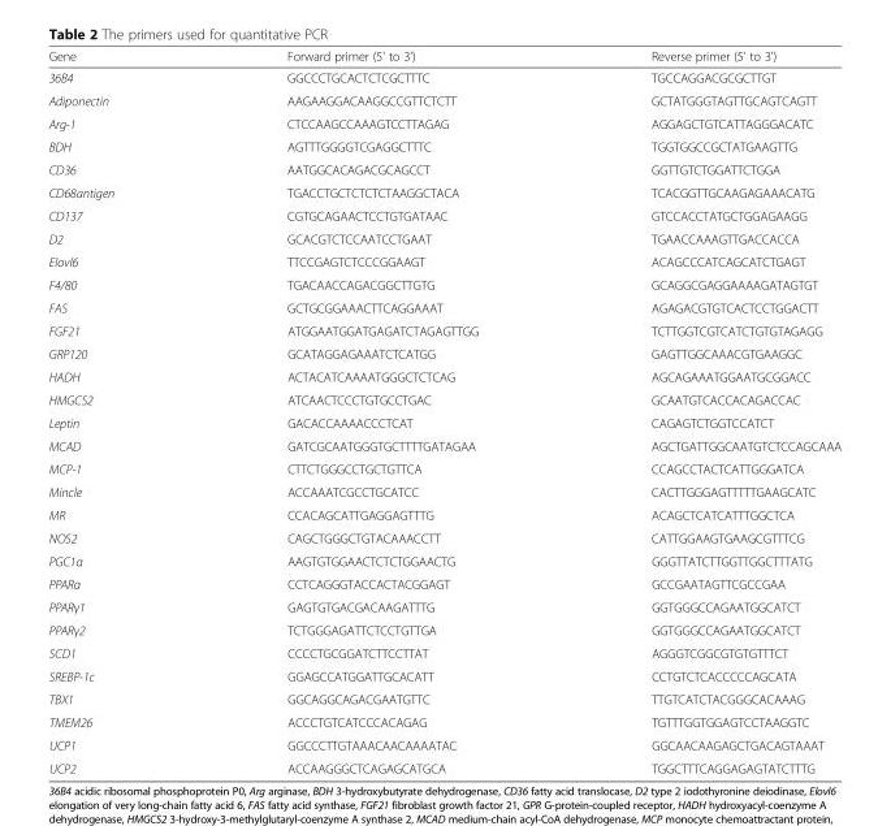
<table><thead><tr><td>Gene</td><td>Forward primer (5&#x27; to 3&#x27;)</td><td>Reverse primer (5&#x27; to 3&#x27;)</td></tr></thead><tbody><tr><td>36B4</td><td>GGCCCTGCACTCTCGCTTTC</td><td>TGCCAGGACGCGCTTGT</td></tr><tr><td>Adiponectin</td><td>AAGAAGGACAAGGCCGTTCTCTT</td><td>GCTATGGGTAGTTGCAGTCAGTT</td></tr><tr><td>Arg-1</td><td>CTCCAAGCCAAAGTCCTTAGAG</td><td>AGGAGCTGTCATTAGGGACATC</td></tr><tr><td>BDH</td><td>AGTTTGGGGTCGAGGCTTTC</td><td>TGGTGGCCGCTATGAAGTTG</td></tr><tr><td>CD36</td><td>AATGGCACAGACGCAGCCT</td><td>GGTTGTCTGGATTCTGGA</td></tr><tr><td>CD68antigen</td><td>TGACCTGCTCTCTCTAAGGCTACA</td><td>TCACGGTTGCAAGAGAAACATG</td></tr><tr><td>CD137</td><td>CGTGCAGAACTCCTGTGATAAC</td><td>GTCCACCTATGCTGGAGAAGG</td></tr><tr><td>D2</td><td>GCACGTCTCCAATCCTGAAT</td><td>TGAACCAAAGTTGACCACCA</td></tr><tr><td>Elovl6</td><td>TTCCGAGTCTCCCGGAAGT</td><td>ACAGCCCATCAGCATCTGAGT</td></tr><tr><td>F4/80</td><td>TGACAACCAGACGGCTTGTG</td><td>GCAGGCGAGGAAAAGATAGTGT</td></tr><tr><td>FAS</td><td>GCTGCGGAAACTTCAGGAAAT</td><td>AGAGACGTGTCACTCCTGGACTT</td></tr><tr><td>FGF21</td><td>ATGGAATGGATGAGATCTAGAGTTGG</td><td>TCTTGGTCGTCATCTGTGTAGAGG</td></tr><tr><td>GRP120</td><td>GCATAGGAGAAATCTCATGG</td><td>GAGTTGGCAAACGTGAAGGC</td></tr><tr><td>HADH</td><td>ACTACATCAAAATGGGCTCTCAG</td><td>AGCAGAAATGGAATGCGGACC</td></tr><tr><td>HMGCS2</td><td>ATCAACTCCCTGTGCCTGAC</td><td>GCAATGTCACCACAGACCAC</td></tr><tr><td>Leptin</td><td>GACACCAAAACCCTCAT</td><td>CAGAGTCTGGTCCATCT</td></tr><tr><td>MCAD</td><td>GATCGCAATGGGTGCTTTTGATAGAA</td><td>AGCTGATTGGCAATGTCTCCAGCAAA</td></tr><tr><td>MCP-1</td><td>CTTCTGGGCCTGCTGTTCA</td><td>CCAGCCTACTCATTGGGATCA</td></tr><tr><td>Mincle</td><td>ACCAAATCGCCTGCATCC</td><td>CACTTGGGAGTTTTTGAAGCATC</td></tr><tr><td>MR</td><td>CCACAGCATTGAGGAGTTTG</td><td>ACAGCTCATCATTTGGCTCA</td></tr><tr><td>NOS2</td><td>CAGCTGGGCTGTACAAACCTT</td><td>CATTGGAAGTGAAGCGTTTCG</td></tr><tr><td>PGC1α</td><td>AAGTGTGGAACTCTCTGGAACTG</td><td>GGGTTATCTTGGTTGGCTTTATG</td></tr><tr><td>PPARα</td><td>CCTCAGGGTACCACTACGGAGT</td><td>GCCGAATAGTTCGCCGAA</td></tr><tr><td>PPARγ1</td><td>GAGTGTGACGACAAGATTTG</td><td>GGTGGGCCAGAATGGCATCT</td></tr><tr><td>PPARγ2</td><td>TCTGGGAGATTCTCCTGTTGA</td><td>GGTGGGCCAGAATGGCATCT</td></tr><tr><td>SCD1</td><td>CCCCTGCGGATCTTCCTTAT</td><td>AGGGTCGGCGTGTGTTTCT</td></tr><tr><td>SREBP-1c</td><td>GGAGCCATGGATTGCACATT</td><td>CCTGTCTCACCCCCAGCATA</td></tr><tr><td>TBX1</td><td>GGCAGGCAGACGAATGTTC</td><td>TTGTCATCTACGGGCACAAAG</td></tr><tr><td>TMEM26</td><td>ACCCTGTCATCCCACAGAG</td><td>TGTTTGGTGGAGTCCTAAGGTC</td></tr><tr><td>UCP1</td><td>GGCCCTTGTAAACAACAAAATAC</td><td>GGCAACAAGAGCTGACAGTAAAT</td></tr><tr><td>UCP2</td><td>ACCAAGGGCTCAGAGCATGCA</td><td>TGGCTTTCAGGAGAGTATCTTTG</td></tr></tbody></table>